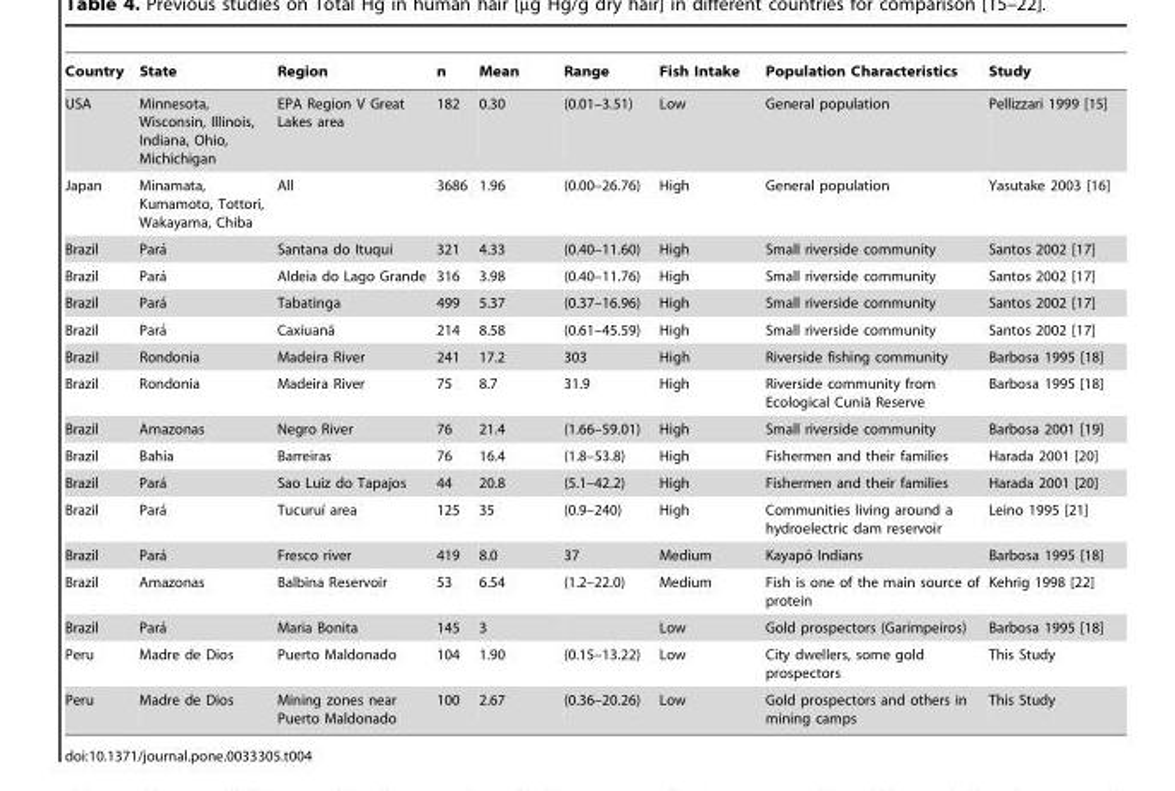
<table><thead><tr><td>Country</td><td>State</td><td>Region</td><td>n</td><td>Mean</td><td>Range</td><td>Fish Intake</td><td>Population Characteristics</td><td>Study</td></tr></thead><tbody><tr><td>USA</td><td>Minnesota, Wisconsin, Illinois, Indiana, Ohio, Michichigan</td><td>EPA Region V Great Lakes area</td><td>182</td><td>0.30</td><td>(0.01–3.51)</td><td>Low</td><td>General population</td><td>Pellizzari 1999 [15]</td></tr><tr><td>Japan</td><td>Minamata, Kumamoto, Tottori, Wakayama, Chiba</td><td>All</td><td>3686</td><td>1.96</td><td>(0.00–26.76)</td><td>High</td><td>General population</td><td>Yasutake 2003 [16]</td></tr><tr><td>Brazil</td><td>Para´</td><td>Santana do Ituqui</td><td>321</td><td>4.33</td><td>(0.40–11.60)</td><td>High</td><td>Small riverside community</td><td>Santos 2002 [17]</td></tr><tr><td>Brazil</td><td>Para´</td><td>Aldeia do Lago Grande</td><td>316</td><td>3.98</td><td>(0.40–11.76)</td><td>High</td><td>Small riverside community</td><td>Santos 2002 [17]</td></tr><tr><td>Brazil</td><td>Para´</td><td>Tabatinga</td><td>499</td><td>5.37</td><td>(0.37–16.96)</td><td>High</td><td>Small riverside community</td><td>Santos 2002 [17]</td></tr><tr><td>Brazil</td><td>Para´</td><td>Caxiuana˜</td><td>214</td><td>8.58</td><td>(0.61–45.59)</td><td>High</td><td>Small riverside community</td><td>Santos 2002 [17]</td></tr><tr><td>Brazil</td><td>Rondonia</td><td>Madeira River</td><td>241</td><td>17.2</td><td>303</td><td>High</td><td>Riverside fishing community</td><td>Barbosa 1995 [18]</td></tr><tr><td>Brazil</td><td>Rondonia</td><td>Madeira River</td><td>75</td><td>8.7</td><td>31.9</td><td>High</td><td>Riverside community from Ecological Cunia˜ Reserve</td><td>Barbosa 1995 [18]</td></tr><tr><td>Brazil</td><td>Amazonas</td><td>Negro River</td><td>76</td><td>21.4</td><td>(1.66–59.01)</td><td>High</td><td>Small riverside community</td><td>Barbosa 2001 [19]</td></tr><tr><td>Brazil</td><td>Bahia</td><td>Barreiras</td><td>76</td><td>16.4</td><td>(1.8–53.8)</td><td>High</td><td>Fishermen and their families</td><td>Harada 2001 [20]</td></tr><tr><td>Brazil</td><td>Para´</td><td>Sao Luiz do Tapajos</td><td>44</td><td>20.8</td><td>(5.1–42.2)</td><td>High</td><td>Fishermen and their families</td><td>Harada 2001 [20]</td></tr><tr><td>Brazil</td><td>Para´</td><td>Tucuruı´ area</td><td>125</td><td>35</td><td>(0.9–240)</td><td>High</td><td>Communities living around a hydroelectric dam reservoir</td><td>Leino 1995 [21]</td></tr><tr><td>Brazil</td><td>Para´</td><td>Fresco river</td><td>419</td><td>8.0</td><td>37</td><td>Medium</td><td>Kayapo´ Indians</td><td>Barbosa 1995 [18]</td></tr><tr><td>Brazil</td><td>Amazonas</td><td>Balbina Reservoir</td><td>53</td><td>6.54</td><td>(1.2–22.0)</td><td>Medium</td><td>Fish is one of the main source of protein</td><td>Kehrig 1998 [22]</td></tr><tr><td>Brazil</td><td>Para´</td><td>Maria Bonita</td><td>145</td><td>3</td><td></td><td>Low</td><td>Gold prospectors (Garimpeiros)</td><td>Barbosa 1995 [18]</td></tr><tr><td>Peru</td><td>Madre de Dios</td><td>Puerto Maldonado</td><td>104</td><td>1.90</td><td>(0.15–13.22)</td><td>Low</td><td>City dwellers, some gold prospectors</td><td>This Study</td></tr><tr><td>Peru</td><td>Madre de Dios</td><td>Mining zones near Puerto Maldonado</td><td>100</td><td>2.67</td><td>(0.36–20.26)</td><td>Low</td><td>Gold prospectors and others in mining camps</td><td>This Study</td></tr></tbody></table>